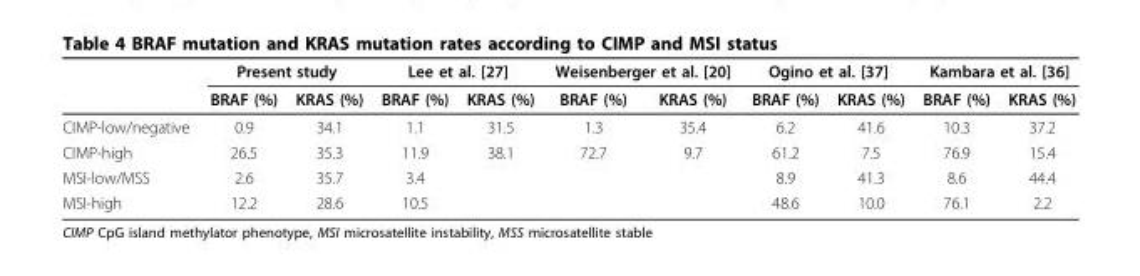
<table><thead><tr><td rowspan="2"></td><td colspan="2">Present study</td><td colspan="2">Lee et al. [27]</td><td colspan="2">Weisenberger et al. [20]</td><td colspan="2">Ogino et al. [37]</td><td colspan="2">Kambara et al. [36]</td></tr><tr><td>BRAF (%)</td><td>KRAS (%)</td><td>BRAF (%)</td><td>KRAS (%)</td><td>BRAF (%)</td><td>KRAS (%)</td><td>BRAF (%)</td><td>KRAS (%)</td><td>BRAF (%)</td><td>KRAS (%)</td></tr></thead><tbody><tr><td>CIMP-low/negative</td><td>0.9</td><td>34.1</td><td>1.1</td><td>31.5</td><td>1.3</td><td>35.4</td><td>6.2</td><td>41.6</td><td>10.3</td><td>37.2</td></tr><tr><td>CIMP-high</td><td>26.5</td><td>35.3</td><td>11.9</td><td>38.1</td><td>72.7</td><td>9.7</td><td>61.2</td><td>7.5</td><td>76.9</td><td>15.4</td></tr><tr><td>MSI-low/MSS</td><td>2.6</td><td>35.7</td><td>3.4</td><td></td><td></td><td></td><td>8.9</td><td>41.3</td><td>8.6</td><td>44.4</td></tr><tr><td>MSI-high</td><td>12.2</td><td>28.6</td><td>10.5</td><td></td><td></td><td></td><td>48.6</td><td>10.0</td><td>76.1</td><td>2.2</td></tr></tbody></table>